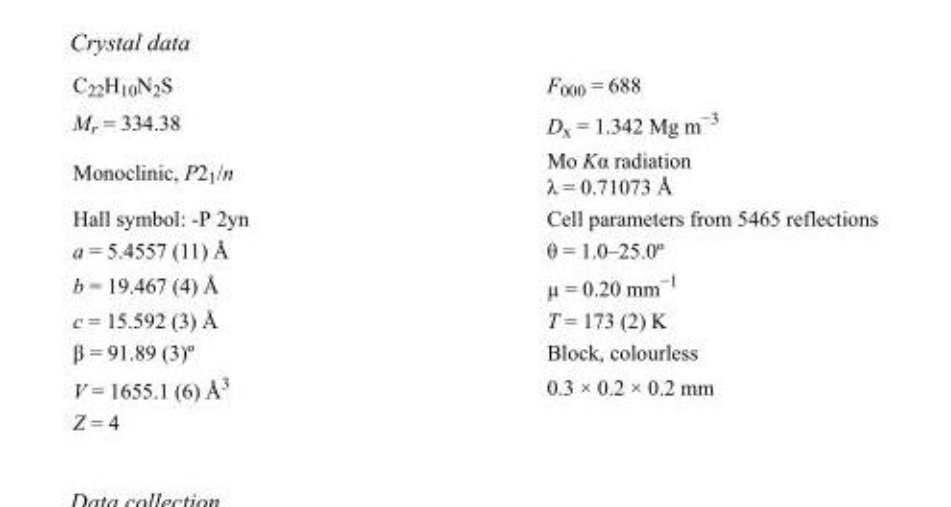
<table><tbody><tr><td>C<sub>22</sub>H<sub>10</sub>N<sub>2</sub>S</td><td>F<sub>000</sub> = 688</td></tr><tr><td>M<sub>r</sub> = 334.38</td><td>D<sub>x</sub> = 1.342 Mg m<sup>−3</sup></td></tr><tr><td>Monoclinic, P2<sub>1</sub>/n</td><td>Mo Kα radiation λ = 0.71073 Å</td></tr><tr><td>Hall symbol: -P 2yn</td><td>Cell parameters from 5465 reflections</td></tr><tr><td>a = 5.4557 (11) Å</td><td>θ = 1.0–25.0º</td></tr><tr><td>b = 19.467 (4) Å</td><td>µ = 0.20 mm<sup>−1</sup></td></tr><tr><td>c = 15.592 (3) Å</td><td>T = 173 (2) K</td></tr><tr><td>β = 91.89 (3)º</td><td>Block, colourless</td></tr><tr><td>V = 1655.1 (6) Å<sup>3</sup></td><td>0.3 × 0.2 × 0.2 mm</td></tr><tr><td>Z = 4</td><td></td></tr></tbody></table>